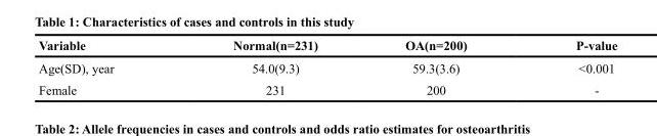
<table><thead><tr><td>Variable</td><td>Normal(n=231)</td><td>OA(n=200)</td><td>P-value</td></tr></thead><tbody><tr><td>Age(SD), year</td><td>54.0(9.3)</td><td>59.3(3.6)</td><td>&lt;0.001</td></tr><tr><td>Female</td><td>231</td><td>200</td><td>-</td></tr></tbody></table>